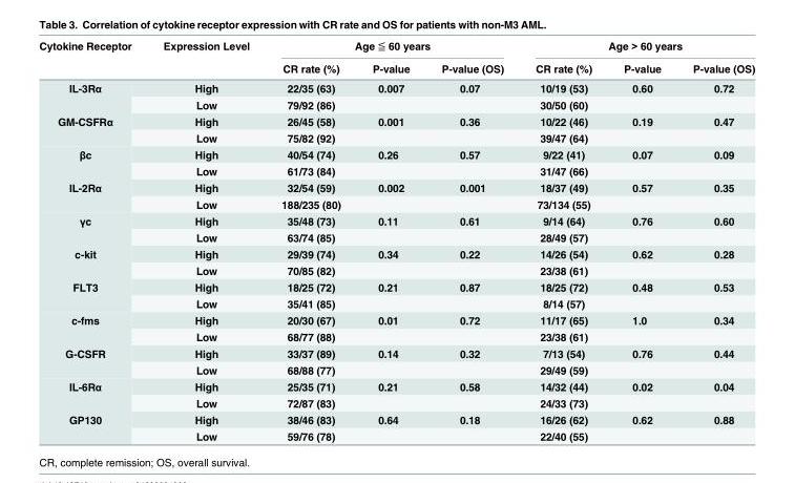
<table><thead><tr><td rowspan="2">Cytokine Receptor</td><td rowspan="2">Expression Level</td><td colspan="3">Age ≦ 60 years</td><td colspan="3">Age &gt; 60 years</td></tr><tr><td>CR rate (%)</td><td>P-value</td><td>P-value (OS)</td><td>CR rate (%)</td><td>P-value</td><td>P-value (OS)</td></tr></thead><tbody><tr><td rowspan="2">IL-3Rα</td><td>High</td><td>22/35 (63)</td><td>0.007</td><td>0.07</td><td>10/19 (53)</td><td>0.60</td><td>0.72</td></tr><tr><td>Low</td><td>79/92 (86)</td><td></td><td></td><td>30/50 (60)</td><td></td><td></td></tr><tr><td rowspan="2">GM-CSFRα</td><td>High</td><td>26/45 (58)</td><td>0.001</td><td>0.36</td><td>10/22 (46)</td><td>0.19</td><td>0.47</td></tr><tr><td>Low</td><td>75/82 (92)</td><td></td><td></td><td>39/47 (64)</td><td></td><td></td></tr><tr><td rowspan="2">βc</td><td>High</td><td>40/54 (74)</td><td>0.26</td><td>0.57</td><td>9/22 (41)</td><td>0.07</td><td>0.09</td></tr><tr><td>Low</td><td>61/73 (84)</td><td></td><td></td><td>31/47 (66)</td><td></td><td></td></tr><tr><td rowspan="2">IL-2Rα</td><td>High</td><td>32/54 (59)</td><td>0.002</td><td>0.001</td><td>18/37 (49)</td><td>0.57</td><td>0.35</td></tr><tr><td>Low</td><td>188/235 (80)</td><td></td><td></td><td>73/134 (55)</td><td></td><td></td></tr><tr><td rowspan="2">γc</td><td>High</td><td>35/48 (73)</td><td>0.11</td><td>0.61</td><td>9/14 (64)</td><td>0.76</td><td>0.60</td></tr><tr><td>Low</td><td>63/74 (85)</td><td></td><td></td><td>28/49 (57)</td><td></td><td></td></tr><tr><td rowspan="2">c-kit</td><td>High</td><td>29/39 (74)</td><td>0.34</td><td>0.22</td><td>14/26 (54)</td><td>0.62</td><td>0.28</td></tr><tr><td>Low</td><td>70/85 (82)</td><td></td><td></td><td>23/38 (61)</td><td></td><td></td></tr><tr><td rowspan="2">FLT3</td><td>High</td><td>18/25 (72)</td><td>0.21</td><td>0.87</td><td>18/25 (72)</td><td>0.48</td><td>0.53</td></tr><tr><td>Low</td><td>35/41 (85)</td><td></td><td></td><td>8/14 (57)</td><td></td><td></td></tr><tr><td rowspan="2">c-fms</td><td>High</td><td>20/30 (67)</td><td>0.01</td><td>0.72</td><td>11/17 (65)</td><td>1.0</td><td>0.34</td></tr><tr><td>Low</td><td>68/77 (88)</td><td></td><td></td><td>23/38 (61)</td><td></td><td></td></tr><tr><td rowspan="2">G-CSFR</td><td>High</td><td>33/37 (89)</td><td>0.14</td><td>0.32</td><td>7/13 (54)</td><td>0.76</td><td>0.44</td></tr><tr><td>Low</td><td>68/88 (77)</td><td></td><td></td><td>29/49 (59)</td><td></td><td></td></tr><tr><td rowspan="2">IL-6Rα</td><td>High</td><td>25/35 (71)</td><td>0.21</td><td>0.58</td><td>14/32 (44)</td><td>0.02</td><td>0.04</td></tr><tr><td>Low</td><td>72/87 (83)</td><td></td><td></td><td>24/33 (73)</td><td></td><td></td></tr><tr><td rowspan="2">GP130</td><td>High</td><td>38/46 (83)</td><td>0.64</td><td>0.18</td><td>16/26 (62)</td><td>0.62</td><td>0.88</td></tr><tr><td>Low</td><td>59/76 (78)</td><td></td><td></td><td>22/40 (55)</td><td></td><td></td></tr></tbody></table>